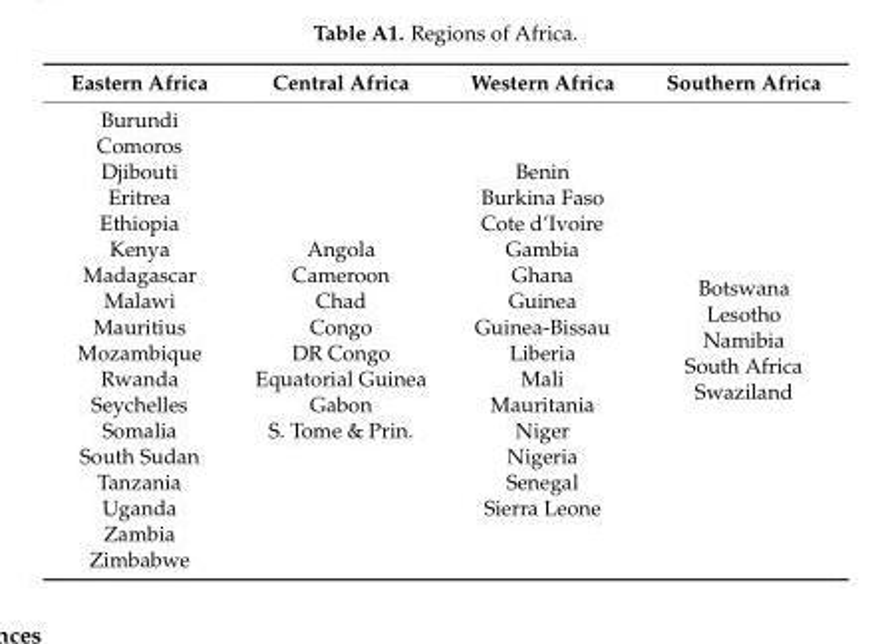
<table><thead><tr><td>Eastern Africa</td><td>Central Africa</td><td>Western Africa</td><td>Southern Africa</td></tr></thead><tbody><tr><td>Burundi Comoros Djibouti Eritrea Ethiopia Kenya Madagascar Malawi Mauritius Mozambique Rwanda Seychelles Somalia South Sudan Tanzania Uganda Zambia Zimbabwe</td><td>Angola Cameroon Chad Congo DR Congo Equatorial Guinea Gabon S. Tome &amp; Prin.</td><td>Benin Burkina Faso Cote d’Ivoire Gambia Ghana Guinea Guinea-Bissau Liberia Mali Mauritania Niger Nigeria Senegal Sierra Leone</td><td>Botswana Lesotho Namibia South Africa Swaziland</td></tr></tbody></table>